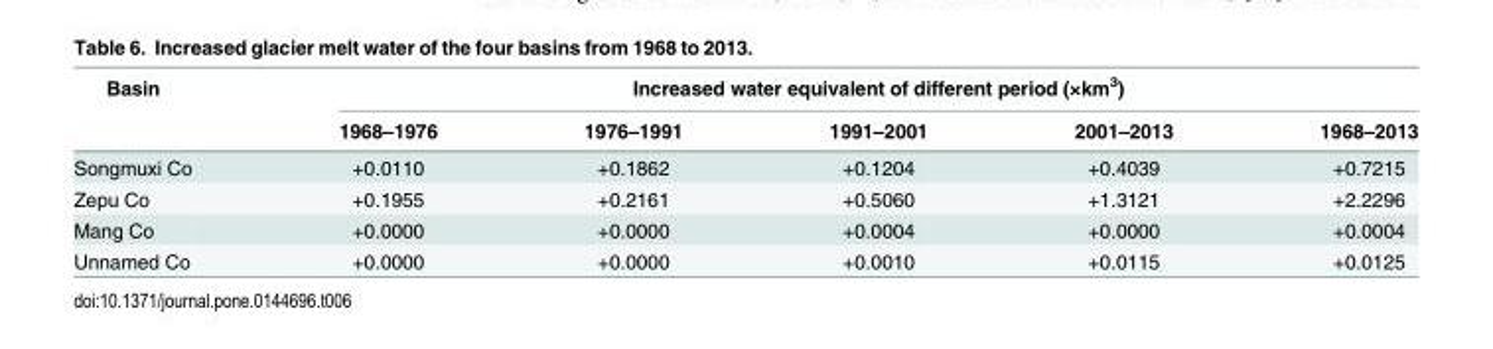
<table><thead><tr><td rowspan="2">Basin</td><td colspan="5">Increased water equivalent of different period (×km<sup>3</sup>)</td></tr><tr><td>1968–1976</td><td>1976–1991</td><td>1991–2001</td><td>2001–2013</td><td>1968–2013</td></tr></thead><tbody><tr><td>Songmuxi Co</td><td>+0.0110</td><td>+0.1862</td><td>+0.1204</td><td>+0.4039</td><td>+0.7215</td></tr><tr><td>Zepu Co</td><td>+0.1955</td><td>+0.2161</td><td>+0.5060</td><td>+1.3121</td><td>+2.2296</td></tr><tr><td>Mang Co</td><td>+0.0000</td><td>+0.0000</td><td>+0.0004</td><td>+0.0000</td><td>+0.0004</td></tr><tr><td>Unnamed Co</td><td>+0.0000</td><td>+0.0000</td><td>+0.0010</td><td>+0.0115</td><td>+0.0125</td></tr></tbody></table>